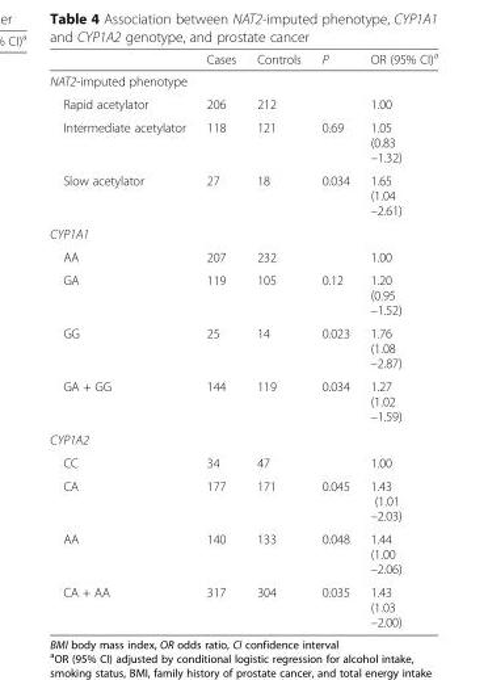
<table><thead><tr><td></td><td>Cases</td><td>Controls</td><td>P</td><td>OR (95% CI)<sup>a</sup></td></tr></thead><tbody><tr><td colspan="5">NAT2-imputed phenotype</td></tr><tr><td>Rapid acetylator</td><td>206</td><td>212</td><td></td><td>1.00</td></tr><tr><td>Intermediate acetylator</td><td>118</td><td>121</td><td>0.69</td><td>1.05 (0.83 –1.32)</td></tr><tr><td>Slow acetylator</td><td>27</td><td>18</td><td>0.034</td><td>1.65 (1.04 –2.61)</td></tr><tr><td colspan="5">CYP1A1</td></tr><tr><td>AA</td><td>207</td><td>232</td><td></td><td>1.00</td></tr><tr><td>GA</td><td>119</td><td>105</td><td>0.12</td><td>1.20 (0.95 –1.52)</td></tr><tr><td>GG</td><td>25</td><td>14</td><td>0.023</td><td>1.76 (1.08 –2.87)</td></tr><tr><td>GA + GG</td><td>144</td><td>119</td><td>0.034</td><td>1.27 (1.02 –1.59)</td></tr><tr><td colspan="5">CYP1A2</td></tr><tr><td>CC</td><td>34</td><td>47</td><td></td><td>1.00</td></tr><tr><td>CA</td><td>177</td><td>171</td><td>0.045</td><td>1.43 (1.01 –2.03)</td></tr><tr><td>AA</td><td>140</td><td>133</td><td>0.048</td><td>1.44 (1.00 –2.06)</td></tr><tr><td>CA + AA</td><td>317</td><td>304</td><td>0.035</td><td>1.43 (1.03 –2.00)</td></tr></tbody></table>